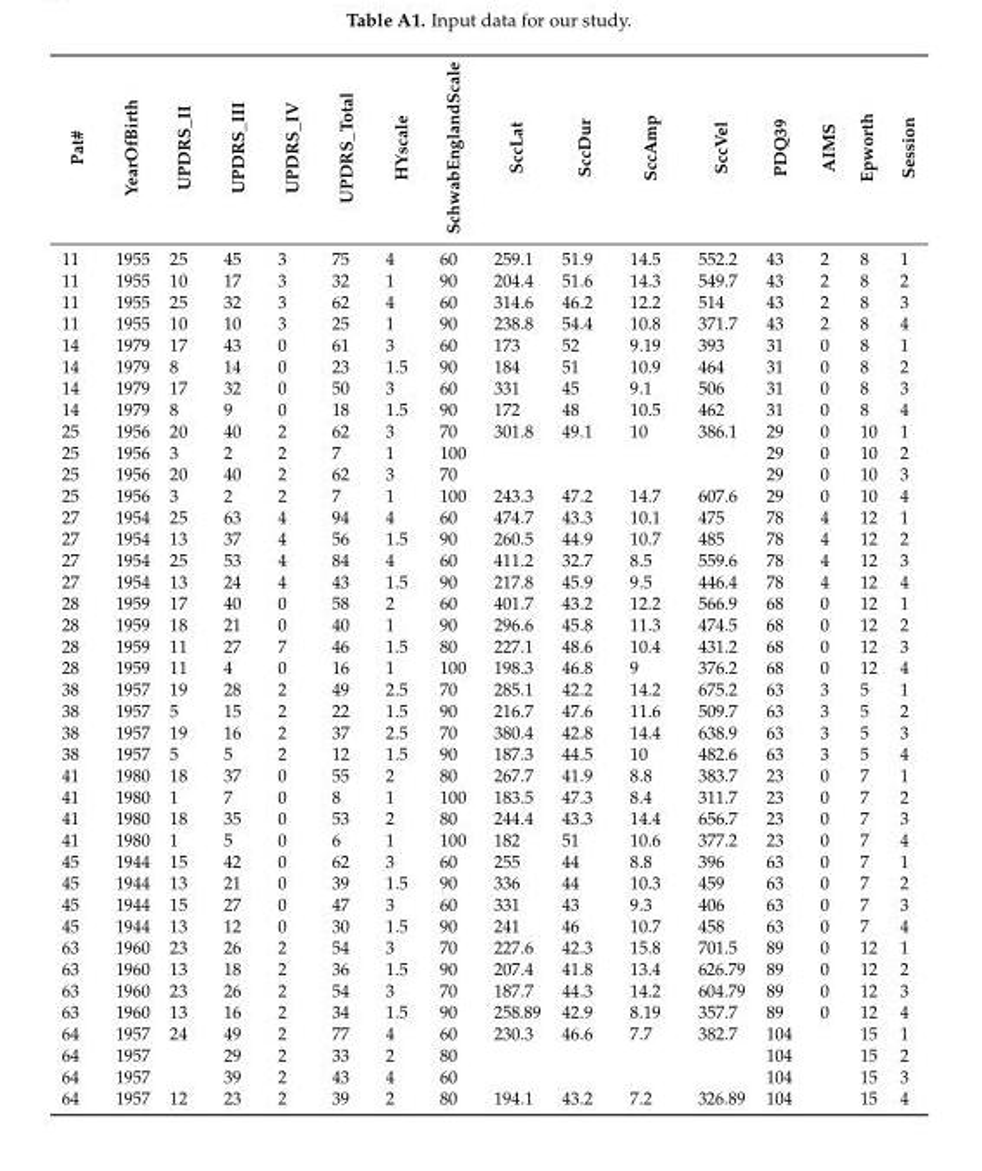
<table><thead><tr><td>Pat#</td><td>YearOfBirth</td><td>UPDRS_II</td><td>UPDRS_III</td><td>UPDRS_IV</td><td>UPDRS_Total</td><td>HYscale</td><td>SchwabEnglandScale</td><td>SccLat</td><td>SccDur</td><td>SccAmp</td><td>SccVel</td><td>PDQ39</td><td>AIMS</td><td>Epworth</td><td>Session</td></tr></thead><tbody><tr><td>11</td><td>1955</td><td>25</td><td>45</td><td>3</td><td>75</td><td>4</td><td>60</td><td>259.1</td><td>51.9</td><td>14.5</td><td>552.2</td><td>43</td><td>2</td><td>8</td><td>1</td></tr><tr><td>11</td><td>1955</td><td>10</td><td>17</td><td>3</td><td>32</td><td>1</td><td>90</td><td>204.4</td><td>51.6</td><td>14.3</td><td>549.7</td><td>43</td><td>2</td><td>8</td><td>2</td></tr><tr><td>11</td><td>1955</td><td>25</td><td>32</td><td>3</td><td>62</td><td>4</td><td>60</td><td>314.6</td><td>46.2</td><td>12.2</td><td>514</td><td>43</td><td>2</td><td>8</td><td>3</td></tr><tr><td>11</td><td>1955</td><td>10</td><td>10</td><td>3</td><td>25</td><td>1</td><td>90</td><td>238.8</td><td>54.4</td><td>10.8</td><td>371.7</td><td>43</td><td>2</td><td>8</td><td>4</td></tr><tr><td>14</td><td>1979</td><td>17</td><td>43</td><td>0</td><td>61</td><td>3</td><td>60</td><td>173</td><td>52</td><td>9.19</td><td>393</td><td>31</td><td>0</td><td>8</td><td>1</td></tr><tr><td>14</td><td>1979</td><td>8</td><td>14</td><td>0</td><td>23</td><td>1.5</td><td>90</td><td>184</td><td>51</td><td>10.9</td><td>464</td><td>31</td><td>0</td><td>8</td><td>2</td></tr><tr><td>14</td><td>1979</td><td>17</td><td>32</td><td>0</td><td>50</td><td>3</td><td>60</td><td>331</td><td>45</td><td>9.1</td><td>506</td><td>31</td><td>0</td><td>8</td><td>3</td></tr><tr><td>14</td><td>1979</td><td>8</td><td>9</td><td>0</td><td>18</td><td>1.5</td><td>90</td><td>172</td><td>48</td><td>10.5</td><td>462</td><td>31</td><td>0</td><td>8</td><td>4</td></tr><tr><td>25</td><td>1956</td><td>20</td><td>40</td><td>2</td><td>62</td><td>3</td><td>70</td><td>301.8</td><td>49.1</td><td>10</td><td>386.1</td><td>29</td><td>0</td><td>10</td><td>1</td></tr><tr><td>25</td><td>1956</td><td>3</td><td>2</td><td>2</td><td>7</td><td>1</td><td>100</td><td></td><td></td><td></td><td></td><td>29</td><td>0</td><td>10</td><td>2</td></tr><tr><td>25</td><td>1956</td><td>20</td><td>40</td><td>2</td><td>62</td><td>3</td><td>70</td><td></td><td></td><td></td><td></td><td>29</td><td>0</td><td>10</td><td>3</td></tr><tr><td>25</td><td>1956</td><td>3</td><td>2</td><td>2</td><td>7</td><td>1</td><td>100</td><td>243.3</td><td>47.2</td><td>14.7</td><td>607.6</td><td>29</td><td>0</td><td>10</td><td>4</td></tr><tr><td>27</td><td>1954</td><td>25</td><td>63</td><td>4</td><td>94</td><td>4</td><td>60</td><td>474.7</td><td>43.3</td><td>10.1</td><td>475</td><td>78</td><td>4</td><td>12</td><td>1</td></tr><tr><td>27</td><td>1954</td><td>13</td><td>37</td><td>4</td><td>56</td><td>1.5</td><td>90</td><td>260.5</td><td>44.9</td><td>10.7</td><td>485</td><td>78</td><td>4</td><td>12</td><td>2</td></tr><tr><td>27</td><td>1954</td><td>25</td><td>53</td><td>4</td><td>84</td><td>4</td><td>60</td><td>411.2</td><td>32.7</td><td>8.5</td><td>559.6</td><td>78</td><td>4</td><td>12</td><td>3</td></tr><tr><td>27</td><td>1954</td><td>13</td><td>24</td><td>4</td><td>43</td><td>1.5</td><td>90</td><td>217.8</td><td>45.9</td><td>9.5</td><td>446.4</td><td>78</td><td>4</td><td>12</td><td>4</td></tr><tr><td>28</td><td>1959</td><td>17</td><td>40</td><td>0</td><td>58</td><td>2</td><td>60</td><td>401.7</td><td>43.2</td><td>12.2</td><td>566.9</td><td>68</td><td>0</td><td>12</td><td>1</td></tr><tr><td>28</td><td>1959</td><td>18</td><td>21</td><td>0</td><td>40</td><td>1</td><td>90</td><td>296.6</td><td>45.8</td><td>11.3</td><td>474.5</td><td>68</td><td>0</td><td>12</td><td>2</td></tr><tr><td>28</td><td>1959</td><td>11</td><td>27</td><td>7</td><td>46</td><td>1.5</td><td>80</td><td>227.1</td><td>48.6</td><td>10.4</td><td>431.2</td><td>68</td><td>0</td><td>12</td><td>3</td></tr><tr><td>28</td><td>1959</td><td>11</td><td>4</td><td>0</td><td>16</td><td>1</td><td>100</td><td>198.3</td><td>46.8</td><td>9</td><td>376.2</td><td>68</td><td>0</td><td>12</td><td>4</td></tr><tr><td>38</td><td>1957</td><td>19</td><td>28</td><td>2</td><td>49</td><td>2.5</td><td>70</td><td>285.1</td><td>42.2</td><td>14.2</td><td>675.2</td><td>63</td><td>3</td><td>5</td><td>1</td></tr><tr><td>38</td><td>1957</td><td>5</td><td>15</td><td>2</td><td>22</td><td>1.5</td><td>90</td><td>216.7</td><td>47.6</td><td>11.6</td><td>509.7</td><td>63</td><td>3</td><td>5</td><td>2</td></tr><tr><td>38</td><td>1957</td><td>19</td><td>16</td><td>2</td><td>37</td><td>2.5</td><td>70</td><td>380.4</td><td>42.8</td><td>14.4</td><td>638.9</td><td>63</td><td>3</td><td>5</td><td>3</td></tr><tr><td>38</td><td>1957</td><td>5</td><td>5</td><td>2</td><td>12</td><td>1.5</td><td>90</td><td>187.3</td><td>44.5</td><td>10</td><td>482.6</td><td>63</td><td>3</td><td>5</td><td>4</td></tr><tr><td>41</td><td>1980</td><td>18</td><td>37</td><td>0</td><td>55</td><td>2</td><td>80</td><td>267.7</td><td>41.9</td><td>8.8</td><td>383.7</td><td>23</td><td>0</td><td>7</td><td>1</td></tr><tr><td>41</td><td>1980</td><td>1</td><td>7</td><td>0</td><td>8</td><td>1</td><td>100</td><td>183.5</td><td>47.3</td><td>8.4</td><td>311.7</td><td>23</td><td>0</td><td>7</td><td>2</td></tr><tr><td>41</td><td>1980</td><td>18</td><td>35</td><td>0</td><td>53</td><td>2</td><td>80</td><td>244.4</td><td>43.3</td><td>14.4</td><td>656.7</td><td>23</td><td>0</td><td>7</td><td>3</td></tr><tr><td>41</td><td>1980</td><td>1</td><td>5</td><td>0</td><td>6</td><td>1</td><td>100</td><td>182</td><td>51</td><td>10.6</td><td>377.2</td><td>23</td><td>0</td><td>7</td><td>4</td></tr><tr><td>45</td><td>1944</td><td>15</td><td>42</td><td>0</td><td>62</td><td>3</td><td>60</td><td>255</td><td>44</td><td>8.8</td><td>396</td><td>63</td><td>0</td><td>7</td><td>1</td></tr><tr><td>45</td><td>1944</td><td>13</td><td>21</td><td>0</td><td>39</td><td>1.5</td><td>90</td><td>336</td><td>44</td><td>10.3</td><td>459</td><td>63</td><td>0</td><td>7</td><td>2</td></tr><tr><td>45</td><td>1944</td><td>15</td><td>27</td><td>0</td><td>47</td><td>3</td><td>60</td><td>331</td><td>43</td><td>9.3</td><td>406</td><td>63</td><td>0</td><td>7</td><td>3</td></tr><tr><td>45</td><td>1944</td><td>13</td><td>12</td><td>0</td><td>30</td><td>1.5</td><td>90</td><td>241</td><td>46</td><td>10.7</td><td>458</td><td>63</td><td>0</td><td>7</td><td>4</td></tr><tr><td>63</td><td>1960</td><td>23</td><td>26</td><td>2</td><td>54</td><td>3</td><td>70</td><td>227.6</td><td>42.3</td><td>15.8</td><td>701.5</td><td>89</td><td>0</td><td>12</td><td>1</td></tr><tr><td>63</td><td>1960</td><td>13</td><td>18</td><td>2</td><td>36</td><td>1.5</td><td>90</td><td>207.4</td><td>41.8</td><td>13.4</td><td>626.79</td><td>89</td><td>0</td><td>12</td><td>2</td></tr><tr><td>63</td><td>1960</td><td>23</td><td>26</td><td>2</td><td>54</td><td>3</td><td>70</td><td>187.7</td><td>44.3</td><td>14.2</td><td>604.79</td><td>89</td><td>0</td><td>12</td><td>3</td></tr><tr><td>63</td><td>1960</td><td>13</td><td>16</td><td>2</td><td>34</td><td>1.5</td><td>90</td><td>258.89</td><td>42.9</td><td>8.19</td><td>357.7</td><td>89</td><td>0</td><td>12</td><td>4</td></tr><tr><td>64</td><td>1957</td><td>24</td><td>49</td><td>2</td><td>77</td><td>4</td><td>60</td><td>230.3</td><td>46.6</td><td>7.7</td><td>382.7</td><td>104</td><td></td><td>15</td><td>1</td></tr><tr><td>64</td><td>1957</td><td></td><td>29</td><td>2</td><td>33</td><td>2</td><td>80</td><td></td><td></td><td></td><td></td><td>104</td><td></td><td>15</td><td>2</td></tr><tr><td>64</td><td>1957</td><td></td><td>39</td><td>2</td><td>43</td><td>4</td><td>60</td><td></td><td></td><td></td><td></td><td>104</td><td></td><td>15</td><td>3</td></tr><tr><td>64</td><td>1957</td><td>12</td><td>23</td><td>2</td><td>39</td><td>2</td><td>80</td><td>194.1</td><td>43.2</td><td>7.2</td><td>326.89</td><td>104</td><td></td><td>15</td><td>4</td></tr></tbody></table>